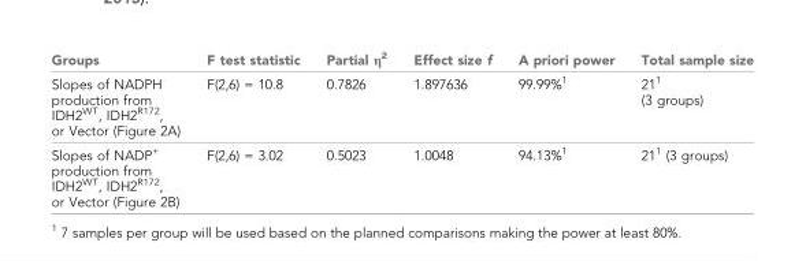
<table><thead><tr><td>Groups</td><td>F test statistic</td><td>Partial η<sup>2</sup></td><td>Effect size f</td><td>A priori power</td><td>Total sample size</td></tr></thead><tbody><tr><td>Slopes of NADPH production from IDH2<sup>WT</sup>, IDH2<sup>R172</sup>, or Vector (Figure 2A)</td><td>F(2,6) = 10.8</td><td>0.7826</td><td>1.897636</td><td>99.99%<sup>1</sup></td><td>21<sup>1</sup> (3 groups)</td></tr><tr><td>Slopes of NADP<sup>+</sup> production from IDH2<sup>WT</sup>, IDH2<sup>R172</sup>, or Vector (Figure 2B)</td><td>F(2,6) = 3.02</td><td>0.5023</td><td>1.0048</td><td>94.13%<sup>1</sup></td><td>21<sup>1</sup> (3 groups)</td></tr></tbody></table>